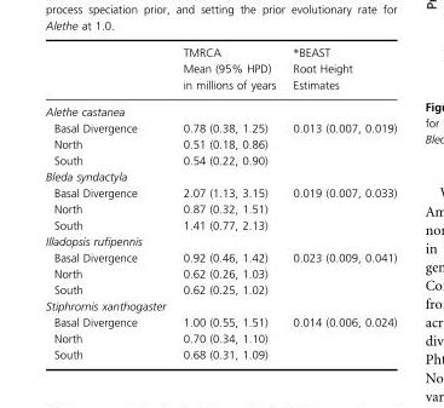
<table><thead><tr><td></td><td>TMRCA Mean (95% HPD) in millions of years</td><td>*BEAST Root Height Estimates</td></tr></thead><tbody><tr><td colspan="3">Alethe castanea</td></tr><tr><td>Basal Divergence</td><td>0.78 (0.38, 1.25)</td><td>0.013 (0.007, 0.019)</td></tr><tr><td>North</td><td>0.51 (0.18, 0.86)</td><td></td></tr><tr><td>South</td><td>0.54 (0.22, 0.90)</td><td></td></tr><tr><td colspan="3">Bleda syndactyla</td></tr><tr><td>Basal Divergence</td><td>2.07 (1.13, 3.15)</td><td>0.019 (0.007, 0.033)</td></tr><tr><td>North</td><td>0.87 (0.32, 1.51)</td><td></td></tr><tr><td>South</td><td>1.41 (0.77, 2.13)</td><td></td></tr><tr><td colspan="3">Illadopsis rufipennis</td></tr><tr><td>Basal Divergence</td><td>0.92 (0.46, 1.42)</td><td>0.023 (0.009, 0.041)</td></tr><tr><td>North</td><td>0.62 (0.26, 1.03)</td><td></td></tr><tr><td>South</td><td>0.62 (0.25, 1.02)</td><td></td></tr><tr><td colspan="3">Stiphrornis xanthogaster</td></tr><tr><td>Basal Divergence</td><td>1.00 (0.55, 1.51)</td><td>0.014 (0.006, 0.024)</td></tr><tr><td>North</td><td>0.70 (0.34, 1.10)</td><td></td></tr><tr><td>South</td><td>0.68 (0.31, 1.09)</td><td></td></tr></tbody></table>